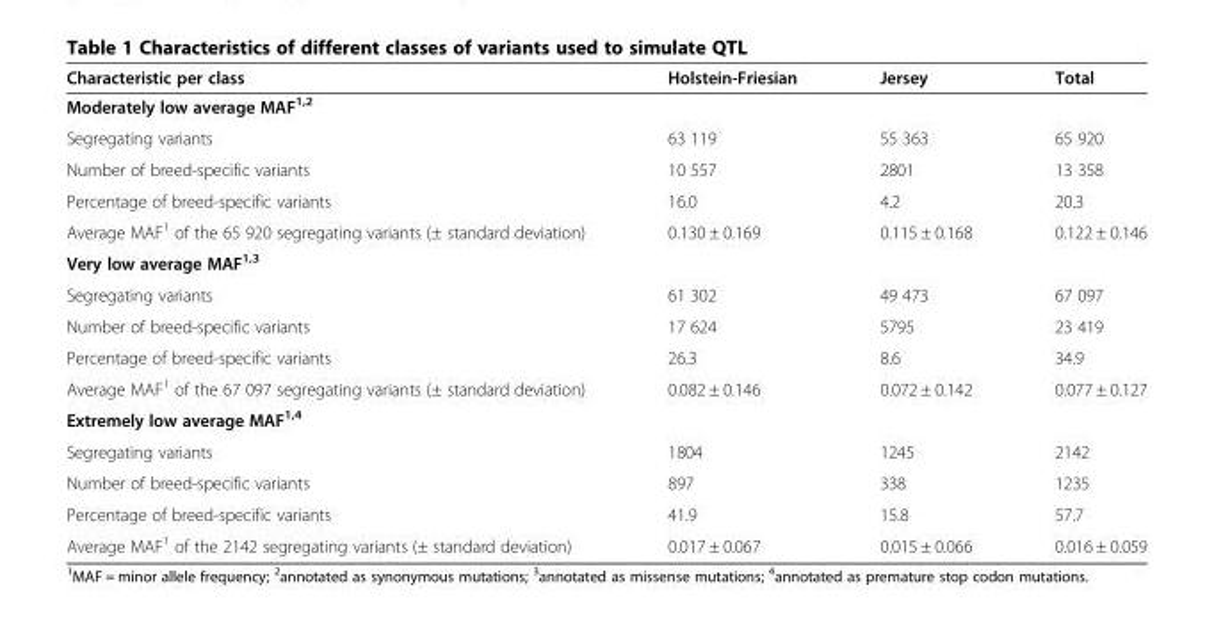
<table><thead><tr><td>Characteristic per class</td><td>Holstein-Friesian</td><td>Jersey</td><td>Total</td></tr></thead><tbody><tr><td colspan="4">Moderately low average MAF<sup>1,2</sup></td></tr><tr><td>Segregating variants</td><td>63 119</td><td>55 363</td><td>65 920</td></tr><tr><td>Number of breed-specific variants</td><td>10 557</td><td>2801</td><td>13 358</td></tr><tr><td>Percentage of breed-specific variants</td><td>16.0</td><td>4.2</td><td>20.3</td></tr><tr><td>Average MAF<sup>1</sup> of the 65 920 segregating variants (± standard deviation)</td><td>0.130 ± 0.169</td><td>0.115 ± 0.168</td><td>0.122 ± 0.146</td></tr><tr><td colspan="4">Very low average MAF<sup>1,3</sup></td></tr><tr><td>Segregating variants</td><td>61 302</td><td>49 473</td><td>67 097</td></tr><tr><td>Number of breed-specific variants</td><td>17 624</td><td>5795</td><td>23 419</td></tr><tr><td>Percentage of breed-specific variants</td><td>26.3</td><td>8.6</td><td>34.9</td></tr><tr><td>Average MAF<sup>1</sup> of the 67 097 segregating variants (± standard deviation)</td><td>0.082 ± 0.146</td><td>0.072 ± 0.142</td><td>0.077 ± 0.127</td></tr><tr><td colspan="4">Extremely low average MAF<sup>1,4</sup></td></tr><tr><td>Segregating variants</td><td>1804</td><td>1245</td><td>2142</td></tr><tr><td>Number of breed-specific variants</td><td>897</td><td>338</td><td>1235</td></tr><tr><td>Percentage of breed-specific variants</td><td>41.9</td><td>15.8</td><td>57.7</td></tr><tr><td>Average MAF<sup>1</sup> of the 2142 segregating variants (± standard deviation)</td><td>0.017 ± 0.067</td><td>0.015 ± 0.066</td><td>0.016 ± 0.059</td></tr></tbody></table>